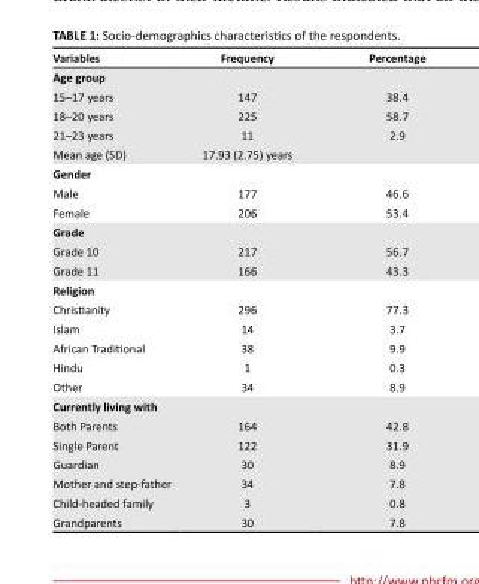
<table><thead><tr><td>Variables</td><td>Frequency</td><td>Percentage</td></tr></thead><tbody><tr><td colspan="3">Age group</td></tr><tr><td>15–17 years</td><td>147</td><td>38.4</td></tr><tr><td>18–20 years</td><td>225</td><td>58.7</td></tr><tr><td>21–23 years</td><td>11</td><td>2.9</td></tr><tr><td>Mean age (SD)</td><td>17.93 (2.75) years</td><td></td></tr><tr><td colspan="3">Gender</td></tr><tr><td>Male</td><td>177</td><td>46.6</td></tr><tr><td>Female</td><td>206</td><td>53.4</td></tr><tr><td colspan="3">Grade</td></tr><tr><td>Grade 10</td><td>217</td><td>56.7</td></tr><tr><td>Grade 11</td><td>166</td><td>43.3</td></tr><tr><td colspan="3">Religion</td></tr><tr><td>Christianity</td><td>296</td><td>77.3</td></tr><tr><td>Islam</td><td>14</td><td>3.7</td></tr><tr><td>African Traditional</td><td>38</td><td>9.9</td></tr><tr><td>Hindu</td><td>1</td><td>0.3</td></tr><tr><td>Other</td><td>34</td><td>8.9</td></tr><tr><td colspan="3">Currently living with</td></tr><tr><td>Both Parents</td><td>164</td><td>42.8</td></tr><tr><td>Single Parent</td><td>122</td><td>31.9</td></tr><tr><td>Guardian</td><td>30</td><td>8.9</td></tr><tr><td>Mother and step-father</td><td>34</td><td>7.8</td></tr><tr><td>Child-headed family</td><td>3</td><td>0.8</td></tr><tr><td>Grandparents</td><td>30</td><td>7.8</td></tr></tbody></table>